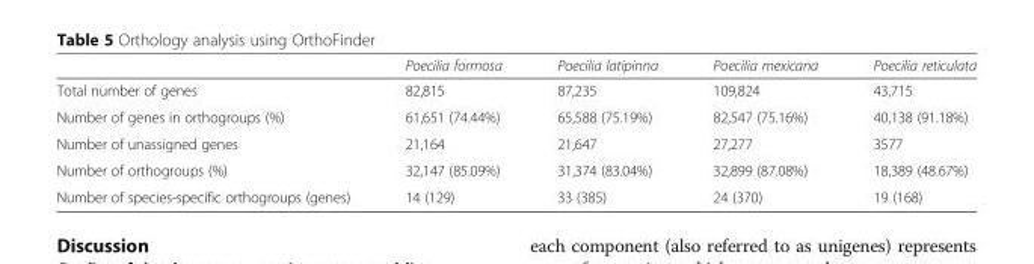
<table><thead><tr><td></td><td>Poecilia formosa</td><td>Poecilia latipinna</td><td>Poecilia mexicana</td><td>Poecilia reticulata</td></tr></thead><tbody><tr><td>Total number of genes</td><td>82,815</td><td>87,235</td><td>109,824</td><td>43,715</td></tr><tr><td>Number of genes in orthogroups (%)</td><td>61,651 (74.44%)</td><td>65,588 (75.19%)</td><td>82,547 (75.16%)</td><td>40,138 (91.18%)</td></tr><tr><td>Number of unassigned genes</td><td>21,164</td><td>21,647</td><td>27,277</td><td>3577</td></tr><tr><td>Number of orthogroups (%)</td><td>32,147 (85.09%)</td><td>31,374 (83.04%)</td><td>32,899 (87.08%)</td><td>18,389 (48.67%)</td></tr><tr><td>Number of species-specific orthogroups (genes)</td><td>14 (129)</td><td>33 (385)</td><td>24 (370)</td><td>19 (168)</td></tr></tbody></table>